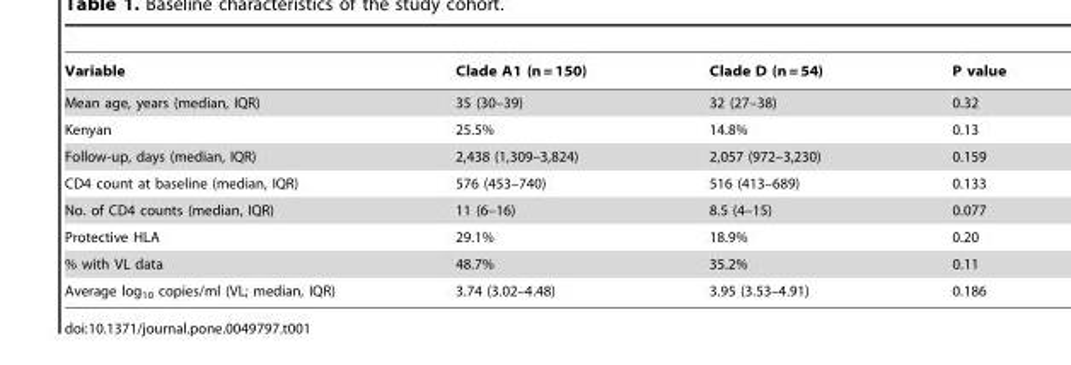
<table><thead><tr><td>Variable</td><td>Clade A1 (n = 150)</td><td>Clade D (n = 54)</td><td>P value</td></tr></thead><tbody><tr><td>Mean age, years (median, IQR)</td><td>35 (30–39)</td><td>32 (27–38)</td><td>0.32</td></tr><tr><td>Kenyan</td><td>25.5%</td><td>14.8%</td><td>0.13</td></tr><tr><td>Follow-up, days (median, IQR)</td><td>2,438 (1,309–3,824)</td><td>2,057 (972–3,230)</td><td>0.159</td></tr><tr><td>CD4 count at baseline (median, IQR)</td><td>576 (453–740)</td><td>516 (413–689)</td><td>0.133</td></tr><tr><td>No. of CD4 counts (median, IQR)</td><td>11 (6–16)</td><td>8.5 (4–15)</td><td>0.077</td></tr><tr><td>Protective HLA</td><td>29.1%</td><td>18.9%</td><td>0.20</td></tr><tr><td>% with VL data</td><td>48.7%</td><td>35.2%</td><td>0.11</td></tr><tr><td>Average log<sub>10</sub> copies/ml (VL; median, IQR)</td><td>3.74 (3.02–4.48)</td><td>3.95 (3.53–4.91)</td><td>0.186</td></tr></tbody></table>